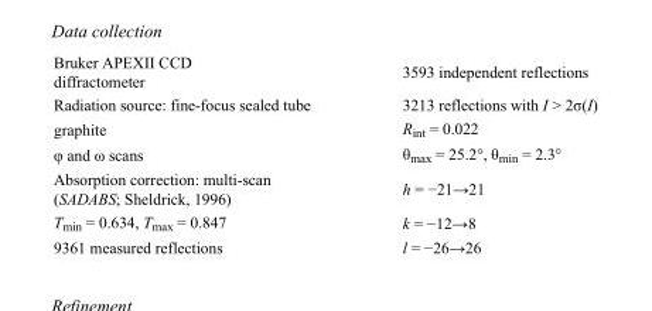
<table><tbody><tr><td>Bruker APEXII CCD diffractometer</td><td>3593 independent reflections</td></tr><tr><td>Radiation source: fine-focus sealed tube</td><td>3213 reflections with I &gt; 2σ(I)</td></tr><tr><td>graphite</td><td>R<sub>int</sub> = 0.022</td></tr><tr><td>φ and ω scans</td><td>θ<sub>max</sub> = 25.2°, θ<sub>min</sub> = 2.3°</td></tr><tr><td>Absorption correction: multi-scan (SADABS; Sheldrick, 1996)</td><td>h = −21→21</td></tr><tr><td>T<sub>min</sub> = 0.634, T<sub>max</sub> = 0.847</td><td>k = −12→8</td></tr><tr><td>9361 measured reflections</td><td>l = −26→26</td></tr></tbody></table>